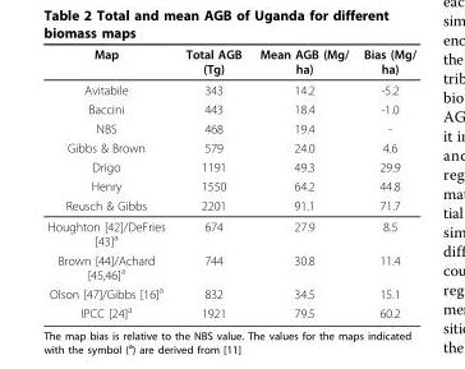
<table><thead><tr><td>Map</td><td>Total AGB (Tg)</td><td>Mean AGB (Mg/ ha)</td><td>Bias (Mg/ ha)</td></tr></thead><tbody><tr><td>Avitabile</td><td>343</td><td>14.2</td><td>-5.2</td></tr><tr><td>Baccini</td><td>443</td><td>18.4</td><td>-1.0</td></tr><tr><td>NBS</td><td>468</td><td>19.4</td><td>-</td></tr><tr><td>Gibbs &amp; Brown</td><td>579</td><td>24.0</td><td>4.6</td></tr><tr><td>Drigo</td><td>1191</td><td>49.3</td><td>29.9</td></tr><tr><td>Henry</td><td>1550</td><td>64.2</td><td>44.8</td></tr><tr><td>Reusch &amp; Gibbs</td><td>2201</td><td>91.1</td><td>71.7</td></tr><tr><td>Houghton [42]/DeFries [43]<sup>a</sup></td><td>674</td><td>27.9</td><td>8.5</td></tr><tr><td>Brown [44]/Achard [45,46]<sup>a</sup></td><td>744</td><td>30.8</td><td>11.4</td></tr><tr><td>Olson [47]/Gibbs [16]<sup>a</sup></td><td>832</td><td>34.5</td><td>15.1</td></tr><tr><td>IPCC [24]<sup>a</sup></td><td>1921</td><td>79.5</td><td>60.2</td></tr></tbody></table>